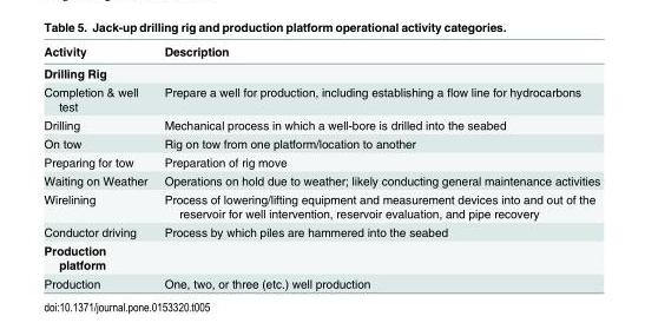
<table><thead><tr><td>Activity</td><td>Description</td></tr></thead><tbody><tr><td colspan="2">Drilling Rig</td></tr><tr><td>Completion &amp; well test</td><td>Prepare a well for production, including establishing a flow line for hydrocarbons</td></tr><tr><td>Drilling</td><td>Mechanical process in which a well-bore is drilled into the seabed</td></tr><tr><td>On tow</td><td>Rig on tow from one platform/location to another</td></tr><tr><td>Preparing for tow</td><td>Preparation of rig move</td></tr><tr><td>Waiting on Weather</td><td>Operations on hold due to weather; likely conducting general maintenance activities</td></tr><tr><td>Wirelining</td><td>Process of lowering/lifting equipment and measurement devices into and out of the reservoir for well intervention, reservoir evaluation, and pipe recovery</td></tr><tr><td>Conductor driving</td><td>Process by which piles are hammered into the seabed</td></tr><tr><td colspan="2">Production platform</td></tr><tr><td>Production</td><td>One, two, or three (etc.) well production</td></tr></tbody></table>